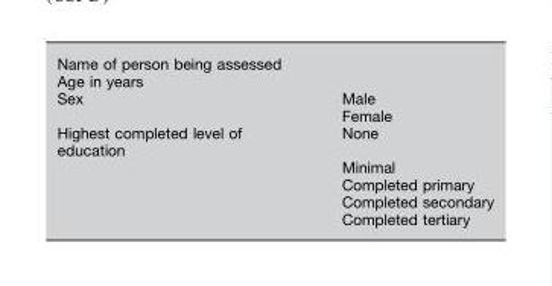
<table><tbody><tr><td colspan="2">Name of person being assessed</td></tr><tr><td colspan="2">Age in years</td></tr><tr><td rowspan="2">Sex</td><td>Male</td></tr><tr><td>Female</td></tr><tr><td rowspan="5">Highest completed level of education</td><td>None</td></tr><tr><td>Minimal</td></tr><tr><td>Completed primary</td></tr><tr><td>Completed secondary</td></tr><tr><td>Completed tertiary</td></tr></tbody></table>